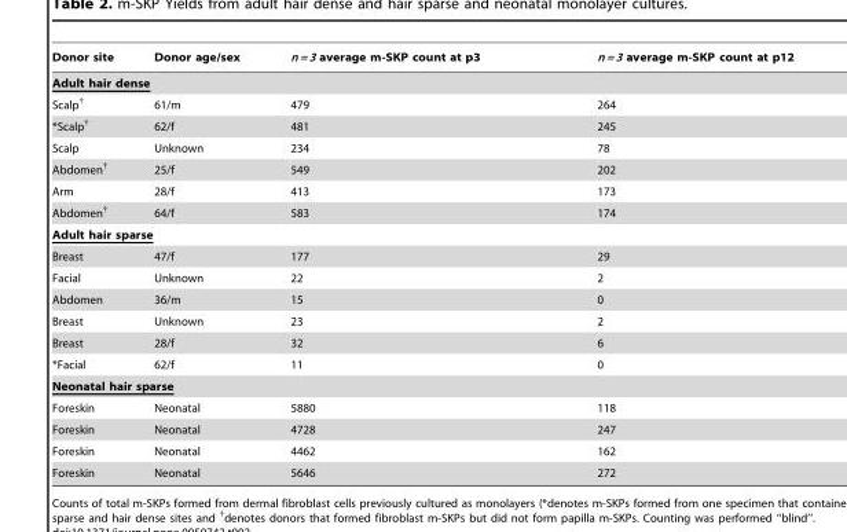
<table><thead><tr><td>Donor site</td><td>Donor age/sex</td><td>n = 3 average m-SKP count at p3</td><td>n = 3 average m-SKP count at p12</td></tr></thead><tbody><tr><td colspan="4">Adult hair dense</td></tr><tr><td>Scalp<sup>†</sup></td><td>61/m</td><td>479</td><td>264</td></tr><tr><td>*Scalp<sup>†</sup></td><td>62/f</td><td>481</td><td>245</td></tr><tr><td>Scalp</td><td>Unknown</td><td>234</td><td>78</td></tr><tr><td>Abdomen<sup>†</sup></td><td>25/f</td><td>549</td><td>202</td></tr><tr><td>Arm</td><td>28/f</td><td>413</td><td>173</td></tr><tr><td>Abdomen<sup>†</sup></td><td>64/f</td><td>583</td><td>174</td></tr><tr><td colspan="4">Adult hair sparse</td></tr><tr><td>Breast</td><td>47/f</td><td>177</td><td>29</td></tr><tr><td>Facial</td><td>Unknown</td><td>22</td><td>2</td></tr><tr><td>Abdomen</td><td>36/m</td><td>15</td><td>0</td></tr><tr><td>Breast</td><td>Unknown</td><td>23</td><td>2</td></tr><tr><td>Breast</td><td>28/f</td><td>32</td><td>6</td></tr><tr><td>*Facial</td><td>62/f</td><td>11</td><td>0</td></tr><tr><td colspan="4">Neonatal hair sparse</td></tr><tr><td>Foreskin</td><td>Neonatal</td><td>5880</td><td>118</td></tr><tr><td>Foreskin</td><td>Neonatal</td><td>4728</td><td>247</td></tr><tr><td>Foreskin</td><td>Neonatal</td><td>4462</td><td>162</td></tr><tr><td>Foreskin</td><td>Neonatal</td><td>5646</td><td>272</td></tr></tbody></table>